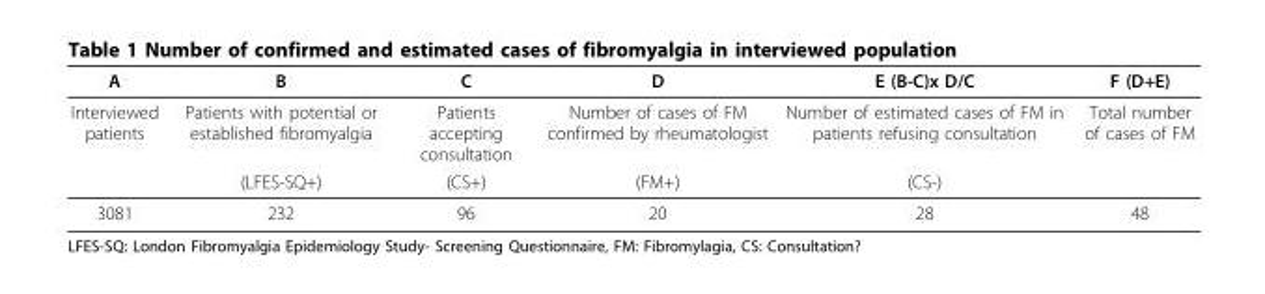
<table><thead><tr><td>A</td><td>B</td><td>C</td><td>D</td><td>E (B-C)x D/C</td><td>F (D+E)</td></tr></thead><tbody><tr><td rowspan="2">Interviewed patients</td><td>Patients with potential or established fibromyalgia</td><td>Patients accepting consultation</td><td>Number of cases of FM confirmed by rheumatologist</td><td>Number of estimated cases of FM in patients refusing consultation</td><td>Total number of cases of FM</td></tr><tr><td>(LFES-SQ+)</td><td>(CS+)</td><td>(FM+)</td><td>(CS-)</td><td></td></tr><tr><td>3081</td><td>232</td><td>96</td><td>20</td><td>28</td><td>48</td></tr></tbody></table>